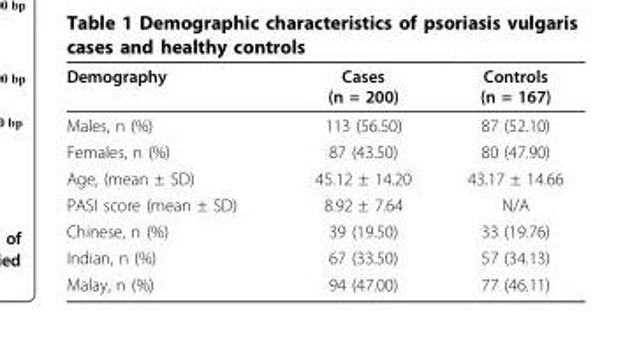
<table><thead><tr><td>Demography</td><td>Cases (n = 200)</td><td>Controls (n = 167)</td></tr></thead><tbody><tr><td>Males, n (%)</td><td>113 (56.50)</td><td>87 (52.10)</td></tr><tr><td>Females, n (%)</td><td>87 (43.50)</td><td>80 (47.90)</td></tr><tr><td>Age, (mean ± SD)</td><td>45.12 ± 14.20</td><td>43.17 ± 14.66</td></tr><tr><td>PASI score (mean ± SD)</td><td>8.92 ± 7.64</td><td>N/A</td></tr><tr><td>Chinese, n (%)</td><td>39 (19.50)</td><td>33 (19.76)</td></tr><tr><td>Indian, n (%)</td><td>67 (33.50)</td><td>57 (34.13)</td></tr><tr><td>Malay, n (%)</td><td>94 (47.00)</td><td>77 (46.11)</td></tr></tbody></table>